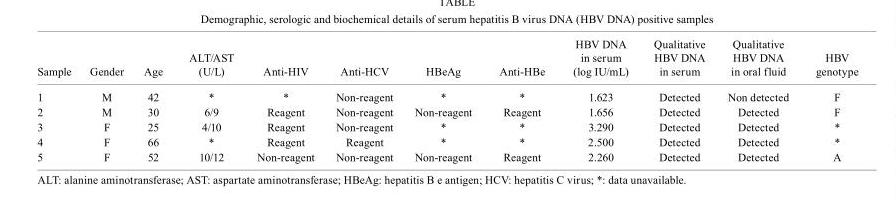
<table><thead><tr><td>Sample</td><td>Gender</td><td>Age</td><td>ALT/AST (U/L)</td><td>Anti-HIV</td><td>Anti-HCV</td><td>HBeAg</td><td>Anti-HBe</td><td>HBV DNA in serum (log IU/mL)</td><td>Qualitative HBV DNA in serum</td><td>Qualitative HBV DNA in oral fluid</td><td>HBV genotype</td></tr></thead><tbody><tr><td>1</td><td>M</td><td>42</td><td>*</td><td>*</td><td>Non-reagent</td><td>*</td><td>*</td><td>1.623</td><td>Detected</td><td>Non detected</td><td>F</td></tr><tr><td>2</td><td>M</td><td>30</td><td>6/9</td><td>Reagent</td><td>Non-reagent</td><td>Non-reagent</td><td>Reagent</td><td>1.656</td><td>Detected</td><td>Detected</td><td>F</td></tr><tr><td>3</td><td>F</td><td>25</td><td>4/10</td><td>Reagent</td><td>Non-reagent</td><td>*</td><td>*</td><td>3.290</td><td>Detected</td><td>Detected</td><td>*</td></tr><tr><td>4</td><td>F</td><td>66</td><td>*</td><td>Reagent</td><td>Reagent</td><td>*</td><td>*</td><td>2.500</td><td>Detected</td><td>Detected</td><td>*</td></tr><tr><td>5</td><td>F</td><td>52</td><td>10/12</td><td>Non-reagent</td><td>Non-reagent</td><td>Non-reagent</td><td>Reagent</td><td>2.260</td><td>Detected</td><td>Detected</td><td>A</td></tr></tbody></table>